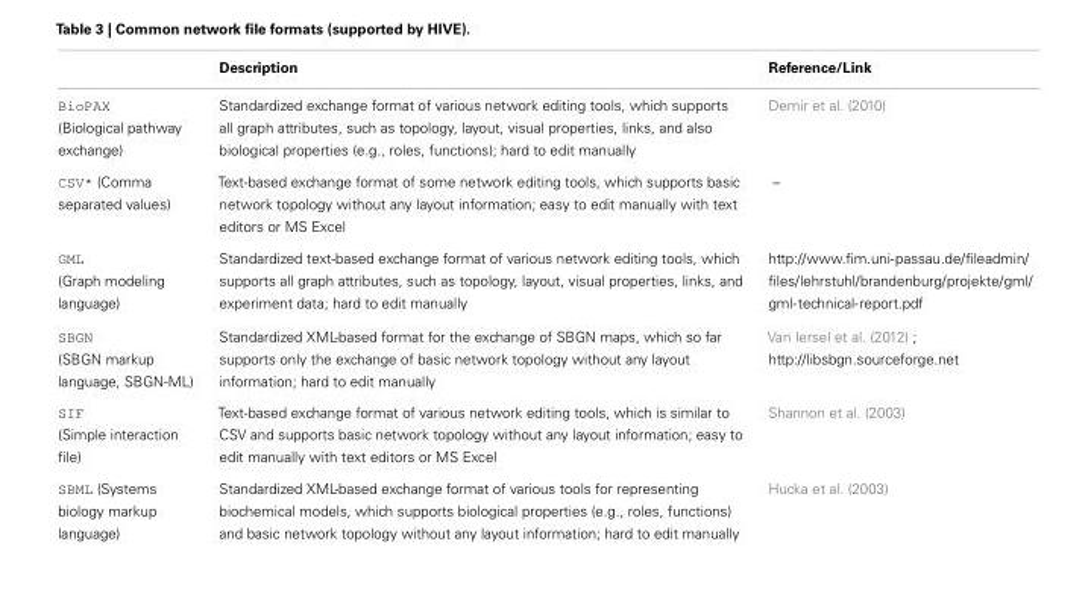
<table><thead><tr><td></td><td>Description</td><td>Reference/Link</td></tr></thead><tbody><tr><td>BioPAX (Biological pathway exchange)</td><td>Standardized exchange format of various network editing tools, which supports all graph attributes, such as topology, layout, visual properties, links, and also biological properties (e.g., roles, functions); hard to edit manually</td><td>Demir et al. (2010)</td></tr><tr><td>CSV* (Comma separated values)</td><td>Text-based exchange format of some network editing tools, which supports basic network topology without any layout information; easy to edit manually with text editors or MS Excel</td><td>–</td></tr><tr><td>GML (Graph modeling language)</td><td>Standardized text-based exchange format of various network editing tools, which supports all graph attributes, such as topology, layout, visual properties, links, and experiment data; hard to edit manually</td><td>http://www.fim.uni-passau.de/fileadmin/ files/lehrstuhl/brandenburg/projekte/gml/ gml-technical-report.pdf</td></tr><tr><td>SBGN (SBGN markup language, SBGN-ML)</td><td>Standardized XML-based format for the exchange of SBGN maps, which so far supports only the exchange of basic network topology without any layout information; hard to edit manually</td><td>Van Iersel et al. (2012) ; http://libsbgn.sourceforge.net</td></tr><tr><td>SIF (Simple interaction file)</td><td>Text-based exchange format of various network editing tools, which is similar to CSV and supports basic network topology without any layout information; easy to edit manually with text editors or MS Excel</td><td>Shannon et al. (2003)</td></tr><tr><td>SBML (Systems biology markup language)</td><td>Standardized XML-based exchange format of various tools for representing biochemical models, which supports biological properties (e.g., roles, functions) and basic network topology without any layout information; hard to edit manually</td><td>Hucka et al. (2003)</td></tr></tbody></table>